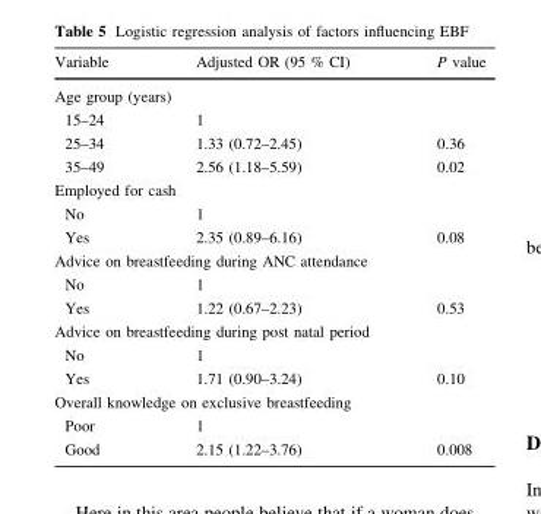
<table><thead><tr><td>Variable</td><td>Adjusted OR (95 % CI)</td><td>P value</td></tr></thead><tbody><tr><td colspan="3">Age group (years)</td></tr><tr><td>15–24</td><td>1</td><td></td></tr><tr><td>25–34</td><td>1.33 (0.72–2.45)</td><td>0.36</td></tr><tr><td>35–49</td><td>2.56 (1.18–5.59)</td><td>0.02</td></tr><tr><td colspan="3">Employed for cash</td></tr><tr><td>No</td><td>1</td><td></td></tr><tr><td>Yes</td><td>2.35 (0.89–6.16)</td><td>0.08</td></tr><tr><td colspan="3">Advice on breastfeeding during ANC attendance</td></tr><tr><td>No</td><td>1</td><td></td></tr><tr><td>Yes</td><td>1.22 (0.67–2.23)</td><td>0.53</td></tr><tr><td colspan="3">Advice on breastfeeding during post natal period</td></tr><tr><td>No</td><td>1</td><td></td></tr><tr><td>Yes</td><td>1.71 (0.90–3.24)</td><td>0.10</td></tr><tr><td colspan="3">Overall knowledge on exclusive breastfeeding</td></tr><tr><td>Poor</td><td>1</td><td></td></tr><tr><td>Good</td><td>2.15 (1.22–3.76)</td><td>0.008</td></tr></tbody></table>